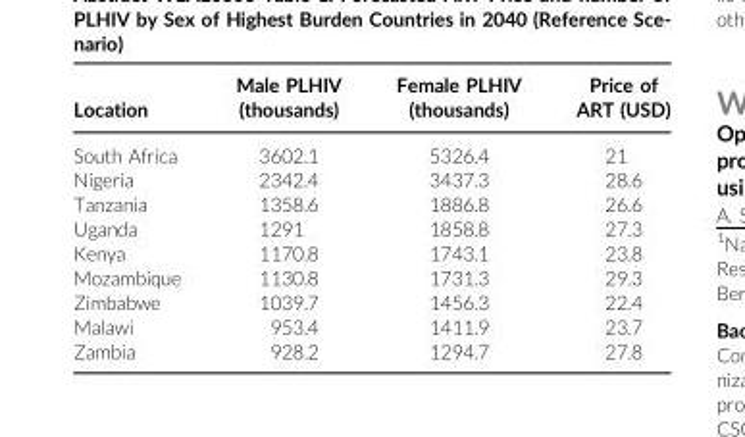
<table><thead><tr><td>Location</td><td>Male PLHIV (thousands)</td><td>Female PLHIV (thousands)</td><td>Price of ART (USD)</td></tr></thead><tbody><tr><td>South Africa</td><td>3602.1</td><td>5326.4</td><td>21</td></tr><tr><td>Nigeria</td><td>2342.4</td><td>3437.3</td><td>28.6</td></tr><tr><td>Tanzania</td><td>1358.6</td><td>1886.8</td><td>26.6</td></tr><tr><td>Uganda</td><td>1291</td><td>1858.8</td><td>27.3</td></tr><tr><td>Kenya</td><td>1170.8</td><td>1743.1</td><td>23.8</td></tr><tr><td>Mozambique</td><td>1130.8</td><td>1731.3</td><td>29.3</td></tr><tr><td>Zimbabwe</td><td>1039.7</td><td>1456.3</td><td>22.4</td></tr><tr><td>Malawi</td><td>953.4</td><td>1411.9</td><td>23.7</td></tr><tr><td>Zambia</td><td>928.2</td><td>1294.7</td><td>27.8</td></tr></tbody></table>